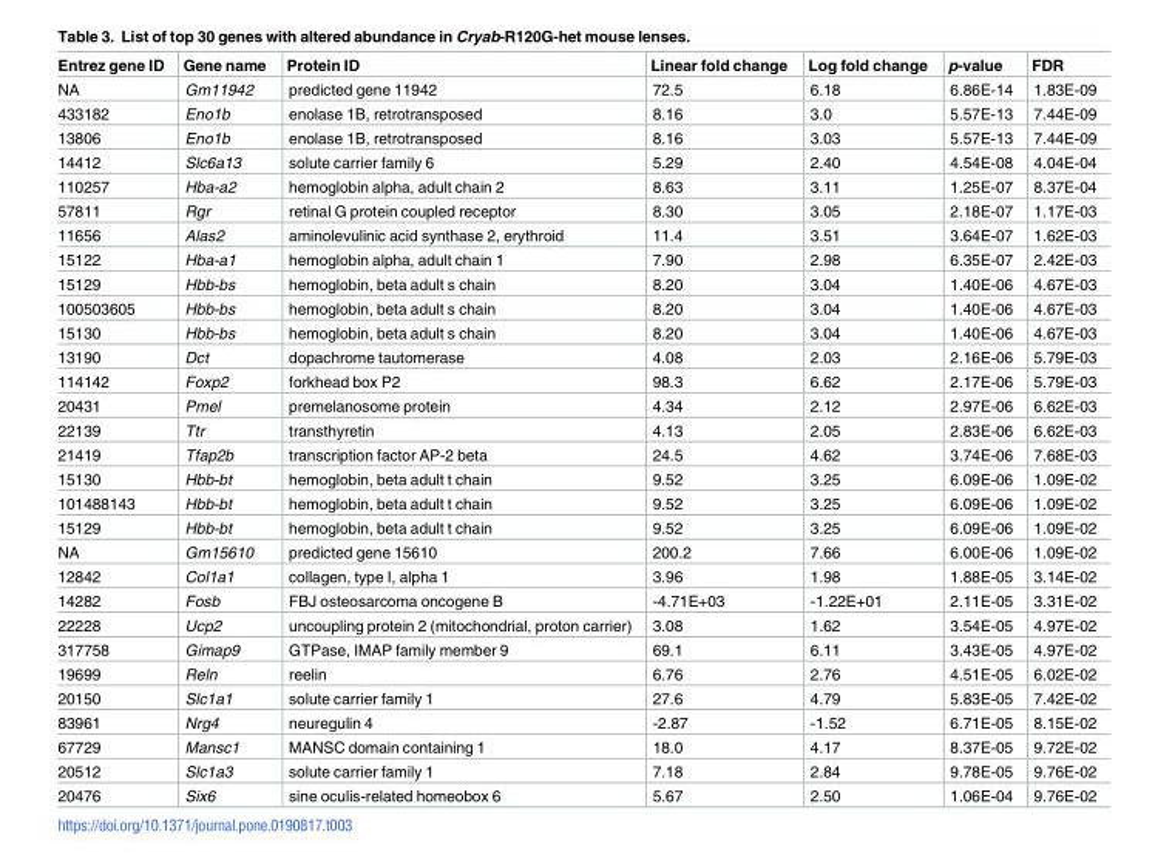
<table><thead><tr><td>Entrez gene ID</td><td>Gene name</td><td>Protein ID</td><td>Linear fold change</td><td>Log fold change</td><td>p-value</td><td>FDR</td></tr></thead><tbody><tr><td>NA</td><td>Gm11942</td><td>predicted gene 11942</td><td>72.5</td><td>6.18</td><td>6.86E-14</td><td>1.83E-09</td></tr><tr><td>433182</td><td>Eno1b</td><td>enolase 1B, retrotransposed</td><td>8.16</td><td>3.0</td><td>5.57E-13</td><td>7.44E-09</td></tr><tr><td>13806</td><td>Eno1b</td><td>enolase 1B, retrotransposed</td><td>8.16</td><td>3.03</td><td>5.57E-13</td><td>7.44E-09</td></tr><tr><td>14412</td><td>Slc6a13</td><td>solute carrier family 6</td><td>5.29</td><td>2.40</td><td>4.54E-08</td><td>4.04E-04</td></tr><tr><td>110257</td><td>Hba-a2</td><td>hemoglobin alpha, adult chain 2</td><td>8.63</td><td>3.11</td><td>1.25E-07</td><td>8.37E-04</td></tr><tr><td>57811</td><td>Rgr</td><td>retinal G protein coupled receptor</td><td>8.30</td><td>3.05</td><td>2.18E-07</td><td>1.17E-03</td></tr><tr><td>11656</td><td>Alas2</td><td>aminolevulinic acid synthase 2, erythroid</td><td>11.4</td><td>3.51</td><td>3.64E-07</td><td>1.62E-03</td></tr><tr><td>15122</td><td>Hba-a1</td><td>hemoglobin alpha, adult chain 1</td><td>7.90</td><td>2.98</td><td>6.35E-07</td><td>2.42E-03</td></tr><tr><td>15129</td><td>Hbb-bs</td><td>hemoglobin, beta adult s chain</td><td>8.20</td><td>3.04</td><td>1.40E-06</td><td>4.67E-03</td></tr><tr><td>100503605</td><td>Hbb-bs</td><td>hemoglobin, beta adult s chain</td><td>8.20</td><td>3.04</td><td>1.40E-06</td><td>4.67E-03</td></tr><tr><td>15130</td><td>Hbb-bs</td><td>hemoglobin, beta adult s chain</td><td>8.20</td><td>3.04</td><td>1.40E-06</td><td>4.67E-03</td></tr><tr><td>13190</td><td>Dct</td><td>dopachrome tautomerase</td><td>4.08</td><td>2.03</td><td>2.16E-06</td><td>5.79E-03</td></tr><tr><td>114142</td><td>Foxp2</td><td>forkhead box P2</td><td>98.3</td><td>6.62</td><td>2.17E-06</td><td>5.79E-03</td></tr><tr><td>20431</td><td>Pmel</td><td>premelanosome protein</td><td>4.34</td><td>2.12</td><td>2.97E-06</td><td>6.62E-03</td></tr><tr><td>22139</td><td>Ttr</td><td>transthyretin</td><td>4.13</td><td>2.05</td><td>2.83E-06</td><td>6.62E-03</td></tr><tr><td>21419</td><td>Tfap2b</td><td>transcription factor AP-2 beta</td><td>24.5</td><td>4.62</td><td>3.74E-06</td><td>7.68E-03</td></tr><tr><td>15130</td><td>Hbb-bt</td><td>hemoglobin, beta adult t chain</td><td>9.52</td><td>3.25</td><td>6.09E-06</td><td>1.09E-02</td></tr><tr><td>101488143</td><td>Hbb-bt</td><td>hemoglobin, beta adult t chain</td><td>9.52</td><td>3.25</td><td>6.09E-06</td><td>1.09E-02</td></tr><tr><td>15129</td><td>Hbb-bt</td><td>hemoglobin, beta adult t chain</td><td>9.52</td><td>3.25</td><td>6.09E-06</td><td>1.09E-02</td></tr><tr><td>NA</td><td>Gm15610</td><td>predicted gene 15610</td><td>200.2</td><td>7.66</td><td>6.00E-06</td><td>1.09E-02</td></tr><tr><td>12842</td><td>Col1a1</td><td>collagen, type I, alpha 1</td><td>3.96</td><td>1.98</td><td>1.88E-05</td><td>3.14E-02</td></tr><tr><td>14282</td><td>Fosb</td><td>FBJ osteosarcoma oncogene B</td><td>-4.71E+03</td><td>-1.22E+01</td><td>2.11E-05</td><td>3.31E-02</td></tr><tr><td>22228</td><td>Ucp2</td><td>uncoupling protein 2 (mitochondrial, proton carrier)</td><td>3.08</td><td>1.62</td><td>3.54E-05</td><td>4.97E-02</td></tr><tr><td>317758</td><td>Gimap9</td><td>GTPase, IMAP family member 9</td><td>69.1</td><td>6.11</td><td>3.43E-05</td><td>4.97E-02</td></tr><tr><td>19699</td><td>Reln</td><td>reelin</td><td>6.76</td><td>2.76</td><td>4.51E-05</td><td>6.02E-02</td></tr><tr><td>20150</td><td>Slc1a1</td><td>solute carrier family 1</td><td>27.6</td><td>4.79</td><td>5.83E-05</td><td>7.42E-02</td></tr><tr><td>83961</td><td>Nrg4</td><td>neuregulin 4</td><td>-2.87</td><td>-1.52</td><td>6.71E-05</td><td>8.15E-02</td></tr><tr><td>67729</td><td>Mansc1</td><td>MANSC domain containing 1</td><td>18.0</td><td>4.17</td><td>8.37E-05</td><td>9.72E-02</td></tr><tr><td>20512</td><td>Slc1a3</td><td>solute carrier family 1</td><td>7.18</td><td>2.84</td><td>9.78E-05</td><td>9.76E-02</td></tr><tr><td>20476</td><td>Six6</td><td>sine oculis-related homeobox 6</td><td>5.67</td><td>2.50</td><td>1.06E-04</td><td>9.76E-02</td></tr></tbody></table>